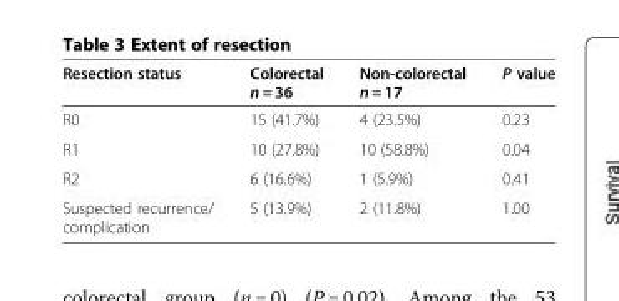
<table><thead><tr><td>Resection status</td><td>Colorectal n = 36</td><td>Non-colorectal n = 17</td><td>P value</td></tr></thead><tbody><tr><td>R0</td><td>15 (41.7%)</td><td>4 (23.5%)</td><td>0.23</td></tr><tr><td>R1</td><td>10 (27.8%)</td><td>10 (58.8%)</td><td>0.04</td></tr><tr><td>R2</td><td>6 (16.6%)</td><td>1 (5.9%)</td><td>0.41</td></tr><tr><td>Suspected recurrence/ complication</td><td>5 (13.9%)</td><td>2 (11.8%)</td><td>1.00</td></tr></tbody></table>